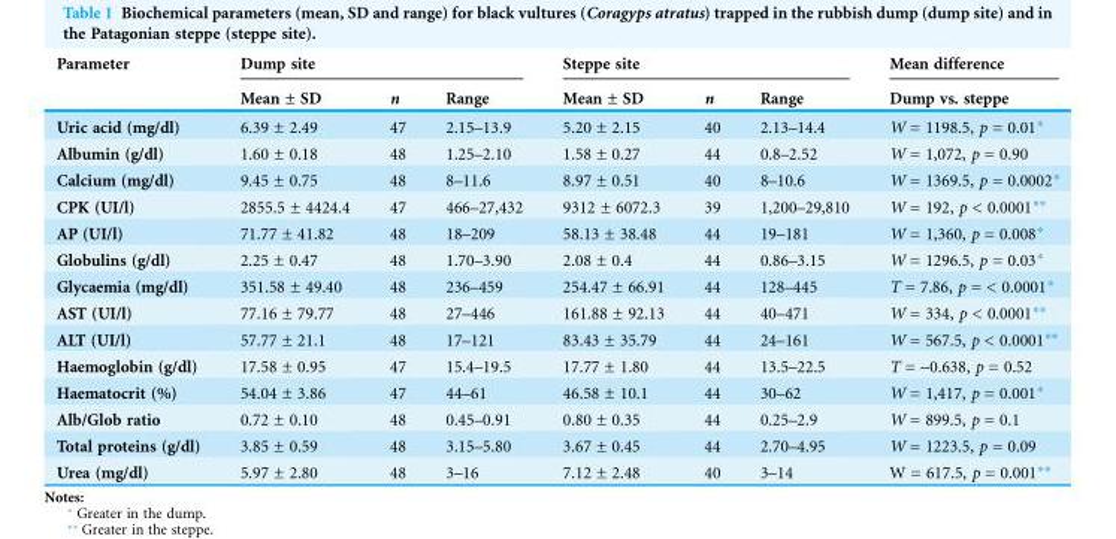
<table><thead><tr><td rowspan="2">Parameter</td><td colspan="3">Dump site</td><td colspan="3">Steppe site</td><td rowspan="2">Mean difference Dump vs. steppe</td></tr><tr><td>Mean ± SD</td><td>n</td><td>Range</td><td>Mean ± SD</td><td>n</td><td>Range</td></tr></thead><tbody><tr><td>Uric acid (mg/dl)</td><td>6.39 ± 2.49</td><td>47</td><td>2.15–13.9</td><td>5.20 ± 2.15</td><td>40</td><td>2.13–14.4</td><td>W = 1198.5, p = 0.01*</td></tr><tr><td>Albumin (g/dl)</td><td>1.60 ± 0.18</td><td>48</td><td>1.25–2.10</td><td>1.58 ± 0.27</td><td>44</td><td>0.8–2.52</td><td>W = 1,072, p = 0.90</td></tr><tr><td>Calcium (mg/dl)</td><td>9.45 ± 0.75</td><td>48</td><td>8–11.6</td><td>8.97 ± 0.51</td><td>40</td><td>8–10.6</td><td>W = 1369.5, p = 0.0002*</td></tr><tr><td>CPK (UI/l)</td><td>2855.5 ± 4424.4</td><td>47</td><td>466–27,432</td><td>9312 ± 6072.3</td><td>39</td><td>1,200–29,810</td><td>W = 192, p &lt; 0.0001**</td></tr><tr><td>AP (UI/l)</td><td>71.77 ± 41.82</td><td>48</td><td>18–209</td><td>58.13 ± 38.48</td><td>44</td><td>19–181</td><td>W = 1,360, p = 0.008*</td></tr><tr><td>Globulins (g/dl)</td><td>2.25 ± 0.47</td><td>48</td><td>1.70–3.90</td><td>2.08 ± 0.4</td><td>44</td><td>0.86–3.15</td><td>W = 1296.5, p = 0.03*</td></tr><tr><td>Glycaemia (mg/dl)</td><td>351.58 ± 49.40</td><td>48</td><td>236–459</td><td>254.47 ± 66.91</td><td>44</td><td>128–445</td><td>T = 7.86, p = &lt; 0.0001*</td></tr><tr><td>AST (UI/l)</td><td>77.16 ± 79.77</td><td>48</td><td>27–446</td><td>161.88 ± 92.13</td><td>44</td><td>40–471</td><td>W = 334, p &lt; 0.0001**</td></tr><tr><td>ALT (UI/l)</td><td>57.77 ± 21.1</td><td>48</td><td>17–121</td><td>83.43 ± 35.79</td><td>44</td><td>24–161</td><td>W = 567.5, p &lt; 0.0001**</td></tr><tr><td>Haemoglobin (g/dl)</td><td>17.58 ± 0.95</td><td>47</td><td>15.4–19.5</td><td>17.77 ± 1.80</td><td>44</td><td>13.5–22.5</td><td>T = -0.638, p = 0.52</td></tr><tr><td>Haematocrit (%)</td><td>54.04 ± 3.86</td><td>47</td><td>44–61</td><td>46.58 ± 10.1</td><td>44</td><td>30–62</td><td>W = 1,417, p = 0.001*</td></tr><tr><td>Alb/Glob ratio</td><td>0.72 ± 0.10</td><td>48</td><td>0.45–0.91</td><td>0.80 ± 0.35</td><td>44</td><td>0.25–2.9</td><td>W = 899.5, p = 0.1</td></tr><tr><td>Total proteins (g/dl)</td><td>3.85 ± 0.59</td><td>48</td><td>3.15–5.80</td><td>3.67 ± 0.45</td><td>44</td><td>2.70–4.95</td><td>W = 1223.5, p = 0.09</td></tr><tr><td>Urea (mg/dl)</td><td>5.97 ± 2.80</td><td>48</td><td>3–16</td><td>7.12 ± 2.48</td><td>40</td><td>3–14</td><td>W = 617.5, p = 0.001**</td></tr></tbody></table>